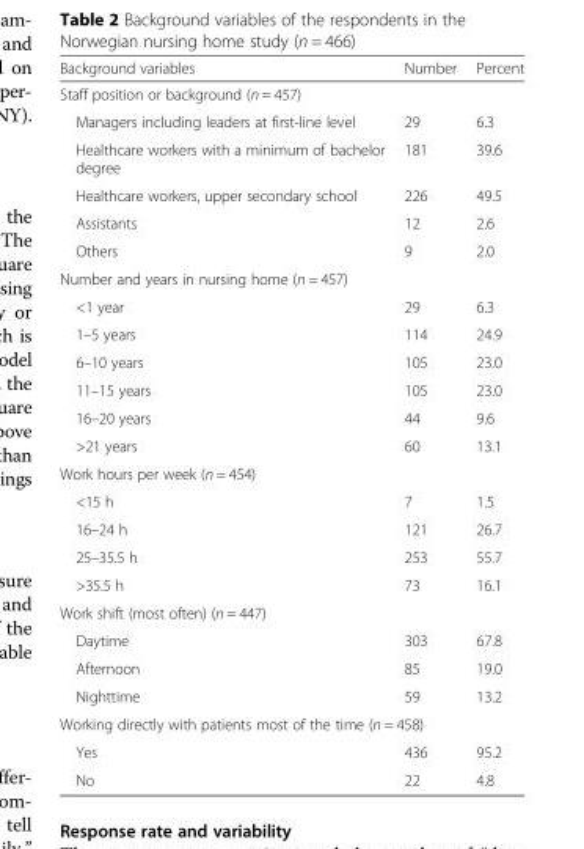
<table><thead><tr><td>Background variables</td><td>Number</td><td>Percent</td></tr></thead><tbody><tr><td colspan="3">Staff position or background (n = 457)</td></tr><tr><td>Managers including leaders at first-line level</td><td>29</td><td>6.3</td></tr><tr><td>Healthcare workers with a minimum of bachelor degree</td><td>181</td><td>39.6</td></tr><tr><td>Healthcare workers, upper secondary school</td><td>226</td><td>49.5</td></tr><tr><td>Assistants</td><td>12</td><td>2.6</td></tr><tr><td>Others</td><td>9</td><td>2.0</td></tr><tr><td colspan="3">Number and years in nursing home (n = 457)</td></tr><tr><td>&lt;1 year</td><td>29</td><td>6.3</td></tr><tr><td>1–5 years</td><td>114</td><td>24.9</td></tr><tr><td>6–10 years</td><td>105</td><td>23.0</td></tr><tr><td>11–15 years</td><td>105</td><td>23.0</td></tr><tr><td>16–20 years</td><td>44</td><td>9.6</td></tr><tr><td>&gt;21 years</td><td>60</td><td>13.1</td></tr><tr><td colspan="3">Work hours per week (n = 454)</td></tr><tr><td>&lt;15 h</td><td>7</td><td>1.5</td></tr><tr><td>16–24 h</td><td>121</td><td>26.7</td></tr><tr><td>25–35.5 h</td><td>253</td><td>55.7</td></tr><tr><td>&gt;35.5 h</td><td>73</td><td>16.1</td></tr><tr><td colspan="3">Work shift (most often) (n = 447)</td></tr><tr><td>Daytime</td><td>303</td><td>67.8</td></tr><tr><td>Afternoon</td><td>85</td><td>19.0</td></tr><tr><td>Nighttime</td><td>59</td><td>13.2</td></tr><tr><td colspan="3">Working directly with patients most of the time (n = 458)</td></tr><tr><td>Yes</td><td>436</td><td>95.2</td></tr><tr><td>No</td><td>22</td><td>4.8</td></tr></tbody></table>